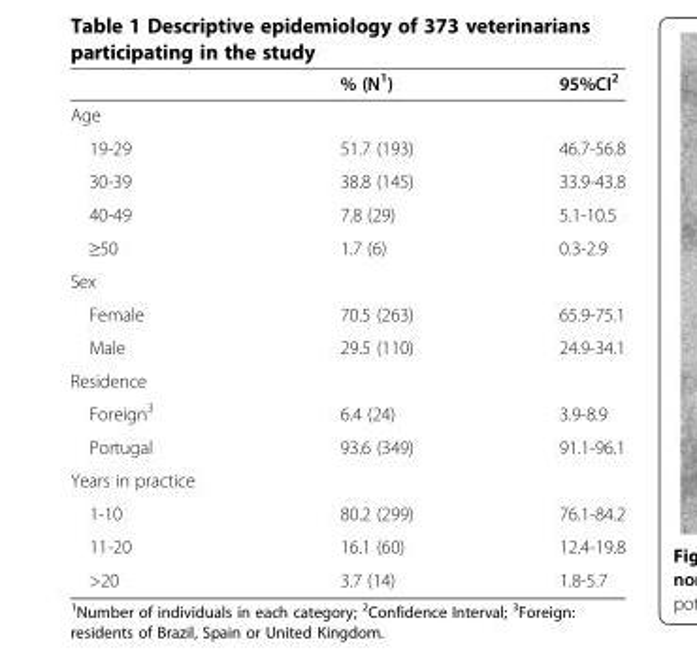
<table><thead><tr><td></td><td>% (N<sup>1</sup>)</td><td>95%CI<sup>2</sup></td></tr></thead><tbody><tr><td colspan="3">Age</td></tr><tr><td>19-29</td><td>51.7 (193)</td><td>46.7-56.8</td></tr><tr><td>30-39</td><td>38.8 (145)</td><td>33.9-43.8</td></tr><tr><td>40-49</td><td>7.8 (29)</td><td>5.1-10.5</td></tr><tr><td>≥50</td><td>1.7 (6)</td><td>0.3-2.9</td></tr><tr><td colspan="3">Sex</td></tr><tr><td>Female</td><td>70.5 (263)</td><td>65.9-75.1</td></tr><tr><td>Male</td><td>29.5 (110)</td><td>24.9-34.1</td></tr><tr><td colspan="3">Residence</td></tr><tr><td>Foreign<sup>3</sup></td><td>6.4 (24)</td><td>3.9-8.9</td></tr><tr><td>Portugal</td><td>93.6 (349)</td><td>91.1-96.1</td></tr><tr><td colspan="3">Years in practice</td></tr><tr><td>1-10</td><td>80.2 (299)</td><td>76.1-84.2</td></tr><tr><td>11-20</td><td>16.1 (60)</td><td>12.4-19.8</td></tr><tr><td>&gt;20</td><td>3.7 (14)</td><td>1.8-5.7</td></tr></tbody></table>